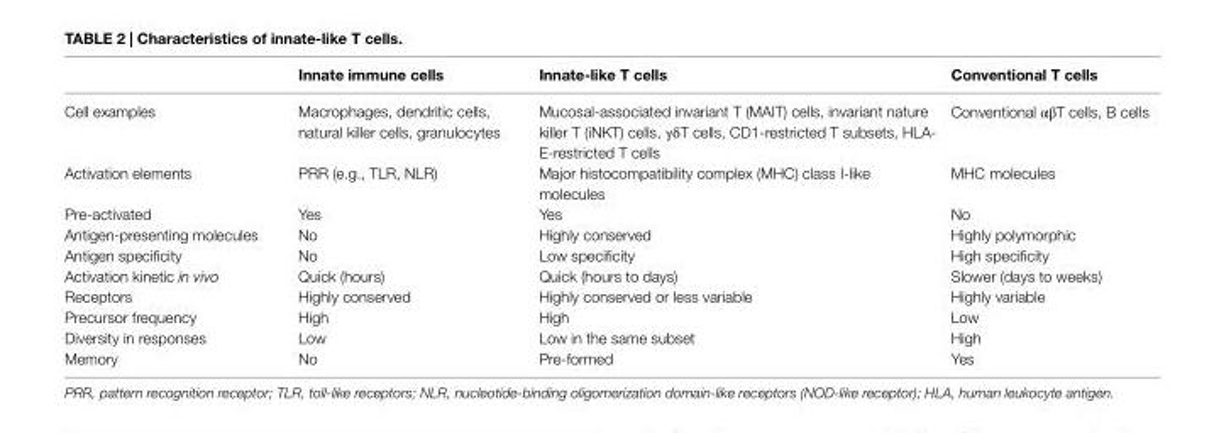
<table><thead><tr><td></td><td>innate immune cells</td><td>innate-like T cells</td><td>Conventional T cells</td></tr></thead><tbody><tr><td>Cell examples</td><td>Macrophages, dendritic cells, natural killer cells, granulocytes</td><td>Mucosal-associated invariant T (MAIT) cells, invariant nature killer T (iNKT) cells, γδT cells, CD1-restricted T subsets, HLA- E-restricted T cells</td><td>Conventional αβT cells, B cells</td></tr><tr><td>Activation elements</td><td>PRR (e.g., TLR, NLR)</td><td>Major histocompatibility complex (MHC) class I-like molecules</td><td>MHC molecules</td></tr><tr><td>Pre-activated</td><td>Yes</td><td>Yes</td><td>No</td></tr><tr><td>Antigen-presenting molecules</td><td>No</td><td>Highly conserved</td><td>Highly polymorphic</td></tr><tr><td>Antigen specificity</td><td>No</td><td>Low specificity</td><td>High specificity</td></tr><tr><td>Activation kinetic in vivo</td><td>Quick (hours)</td><td>Quick (hours to days)</td><td>Slower (days to weeks)</td></tr><tr><td>Receptors</td><td>Highly conserved</td><td>Highly conserved or less variable</td><td>Highly variable</td></tr><tr><td>Precursor frequency</td><td>High</td><td>High</td><td>Low</td></tr><tr><td>Diversity in responses</td><td>Low</td><td>Low in the same subset</td><td>High</td></tr><tr><td>Memory</td><td>No</td><td>Pre-formed</td><td>Yes</td></tr></tbody></table>